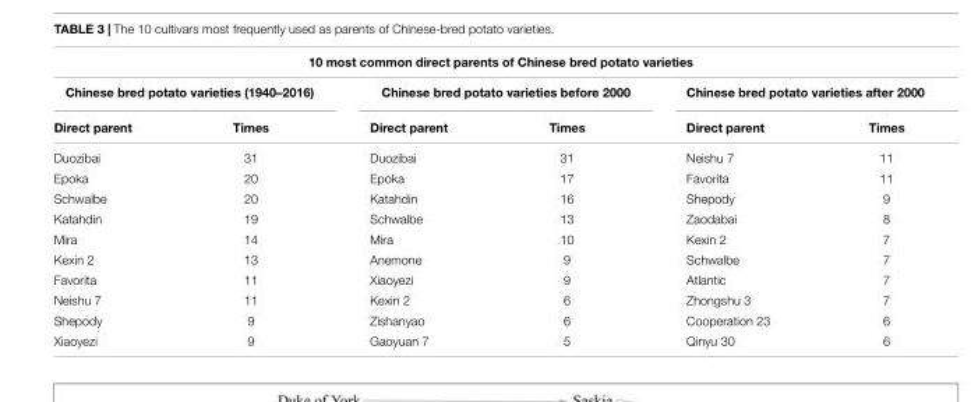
<table><thead><tr><td colspan="6">10 most common direct parents of Chinese bred potato varieties</td></tr><tr><td colspan="2">Chinese bred potato varieties (1940–2016)</td><td colspan="2">Chinese bred potato varieties before 2000</td><td colspan="2">Chinese bred potato varieties after 2000</td></tr><tr><td>Direct parent</td><td>Times</td><td>Direct parent</td><td>Times</td><td>Direct parent</td><td>Times</td></tr></thead><tbody><tr><td>Duozibai</td><td>31</td><td>Duozibai</td><td>31</td><td>Neishu 7</td><td>11</td></tr><tr><td>Epoka</td><td>20</td><td>Epoka</td><td>17</td><td>Favorita</td><td>11</td></tr><tr><td>Schwalbe</td><td>20</td><td>Katahdin</td><td>16</td><td>Shepody</td><td>9</td></tr><tr><td>Katahdin</td><td>19</td><td>Schwalbe</td><td>13</td><td>Zaodabai</td><td>8</td></tr><tr><td>Mira</td><td>14</td><td>Mira</td><td>10</td><td>Kexin 2</td><td>7</td></tr><tr><td>Kexin 2</td><td>13</td><td>Anemone</td><td>9</td><td>Schwalbe</td><td>7</td></tr><tr><td>Favorita</td><td>11</td><td>Xiaoyezi</td><td>9</td><td>Atlantic</td><td>7</td></tr><tr><td>Neishu 7</td><td>11</td><td>Kexin 2</td><td>6</td><td>Zhongshu 3</td><td>7</td></tr><tr><td>Shepody</td><td>9</td><td>Zishanyao</td><td>6</td><td>Cooperation 23</td><td>6</td></tr><tr><td>Xiaoyezi</td><td>9</td><td>Gaoyuan 7</td><td>5</td><td>Qinyu 30</td><td>6</td></tr></tbody></table>